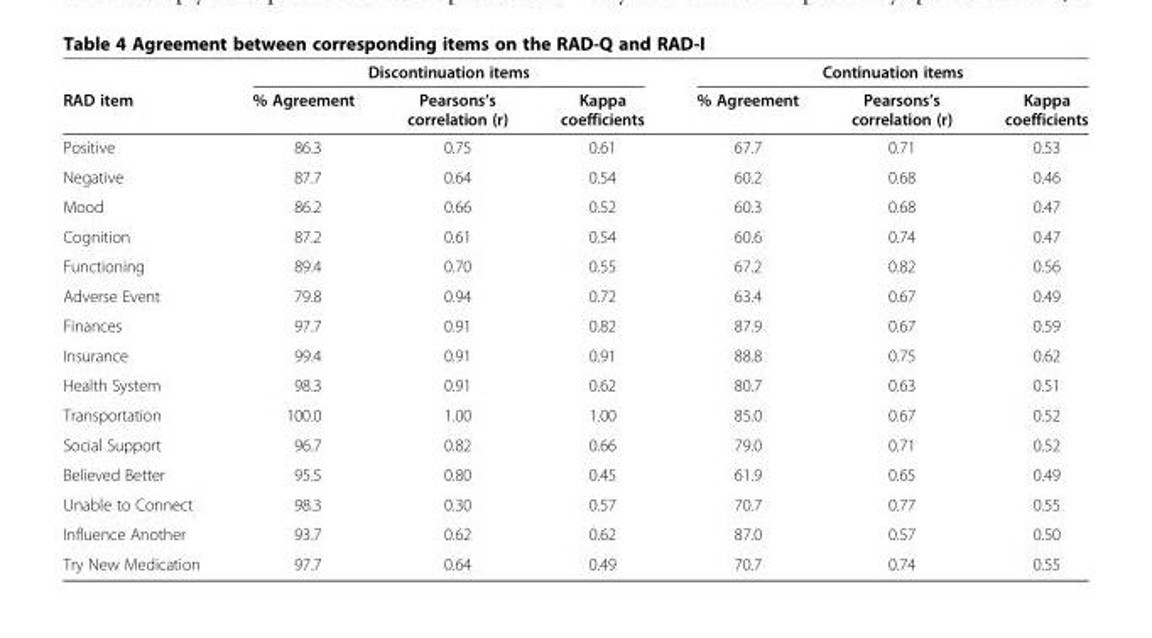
<table><thead><tr><td rowspan="2">RAD item</td><td colspan="3">Discontinuation items</td><td colspan="3">Continuation items</td></tr><tr><td>% Agreement</td><td>Pearsons’s correlation (r)</td><td>Kappa coefficients</td><td>% Agreement</td><td>Pearsons’s correlation (r)</td><td>Kappa coefficients</td></tr></thead><tbody><tr><td>Positive</td><td>86.3</td><td>0.75</td><td>0.61</td><td>67.7</td><td>0.71</td><td>0.53</td></tr><tr><td>Negative</td><td>87.7</td><td>0.64</td><td>0.54</td><td>60.2</td><td>0.68</td><td>0.46</td></tr><tr><td>Mood</td><td>86.2</td><td>0.66</td><td>0.52</td><td>60.3</td><td>0.68</td><td>0.47</td></tr><tr><td>Cognition</td><td>87.2</td><td>0.61</td><td>0.54</td><td>60.6</td><td>0.74</td><td>0.47</td></tr><tr><td>Functioning</td><td>89.4</td><td>0.70</td><td>0.55</td><td>67.2</td><td>0.82</td><td>0.56</td></tr><tr><td>Adverse Event</td><td>79.8</td><td>0.94</td><td>0.72</td><td>63.4</td><td>0.67</td><td>0.49</td></tr><tr><td>Finances</td><td>97.7</td><td>0.91</td><td>0.82</td><td>87.9</td><td>0.67</td><td>0.59</td></tr><tr><td>Insurance</td><td>99.4</td><td>0.91</td><td>0.91</td><td>88.8</td><td>0.75</td><td>0.62</td></tr><tr><td>Health System</td><td>98.3</td><td>0.91</td><td>0.62</td><td>80.7</td><td>0.63</td><td>0.51</td></tr><tr><td>Transportation</td><td>100.0</td><td>1.00</td><td>1.00</td><td>85.0</td><td>0.67</td><td>0.52</td></tr><tr><td>Social Support</td><td>96.7</td><td>0.82</td><td>0.66</td><td>79.0</td><td>0.71</td><td>0.52</td></tr><tr><td>Believed Better</td><td>95.5</td><td>0.80</td><td>0.45</td><td>61.9</td><td>0.65</td><td>0.49</td></tr><tr><td>Unable to Connect</td><td>98.3</td><td>0.30</td><td>0.57</td><td>70.7</td><td>0.77</td><td>0.55</td></tr><tr><td>Influence Another</td><td>93.7</td><td>0.62</td><td>0.62</td><td>87.0</td><td>0.57</td><td>0.50</td></tr><tr><td>Try New Medication</td><td>97.7</td><td>0.64</td><td>0.49</td><td>70.7</td><td>0.74</td><td>0.55</td></tr></tbody></table>